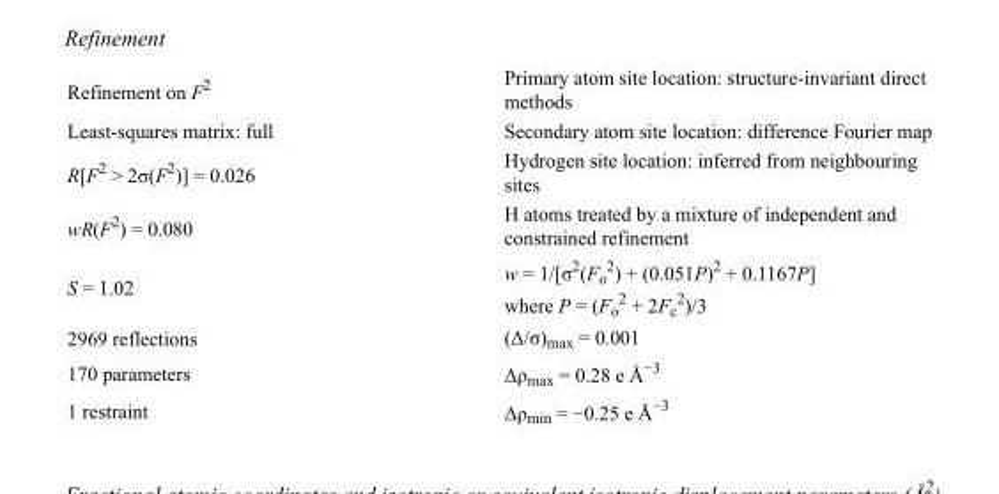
<table><tbody><tr><td>Refinement on F<sup>2</sup></td><td>Primary atom site location: structure-invariant direct methods</td></tr><tr><td>Least-squares matrix: full</td><td>Secondary atom site location: difference Fourier map</td></tr><tr><td>R[F<sup>2</sup> &gt; 2σ(F<sup>2</sup>)] = 0.026</td><td>Hydrogen site location: inferred from neighbouring sites</td></tr><tr><td>wR(F<sup>2</sup>) = 0.080</td><td>H atoms treated by a mixture of independent and constrained refinement</td></tr><tr><td>S = 1.02</td><td>w = 1/[σ<sup>2</sup>(F<sub>o</sub> <sup>2</sup>) + (0.051P)<sup>2</sup> + 0.1167P] where P = (F<sub>o</sub> <sup>2</sup> + 2F<sub>c</sub> <sup>2</sup>)/3</td></tr><tr><td>2969 reflections</td><td>(Δ/σ)<sub>max</sub> = 0.001</td></tr><tr><td>170 parameters</td><td>Δρ<sub>max</sub> = 0.28 e Å<sup>−3</sup></td></tr><tr><td>1 restraint</td><td>Δρ<sub>min</sub> = −0.25 e Å<sup>−3</sup></td></tr></tbody></table>